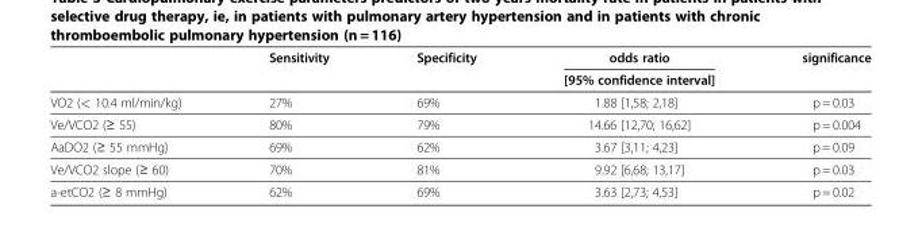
<table><thead><tr><td rowspan="2"></td><td rowspan="2">Sensitivity</td><td rowspan="2">Specificity</td><td rowspan="2">odds ratio [95% confidence interval]</td><td rowspan="2">significance</td></tr><tr></tr></thead><tbody><tr><td>VO2 (&lt; 10.4 ml/min/kg)</td><td>27%</td><td>69%</td><td>1.88 [1,58; 2,18]</td><td>p = 0.03</td></tr><tr><td>Ve/VCO2 (≥ 55)</td><td>80%</td><td>79%</td><td>14.66 [12,70; 16,62]</td><td>p = 0.004</td></tr><tr><td>AaDO2 (≥ 55 mmHg)</td><td>69%</td><td>62%</td><td>3.67 [3,11; 4,23]</td><td>p = 0.09</td></tr><tr><td>Ve/VCO2 slope (≥ 60)</td><td>70%</td><td>81%</td><td>9.92 [6,68; 13,17]</td><td>p = 0.03</td></tr><tr><td>a-etCO2 (≥ 8 mmHg)</td><td>62%</td><td>69%</td><td>3.63 [2,73; 4,53]</td><td>p = 0.02</td></tr></tbody></table>